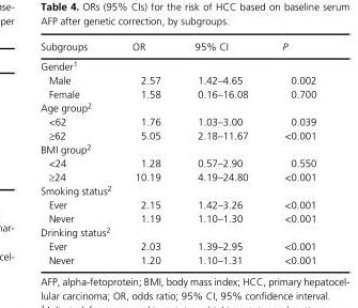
<table><thead><tr><td>Subgroups</td><td>OR</td><td>95% CI</td><td>P</td></tr></thead><tbody><tr><td colspan="4">Gender1</td></tr><tr><td>Male</td><td>2.57</td><td>1.42–4.65</td><td>0.002</td></tr><tr><td>Female</td><td>1.58</td><td>0.16–16.08</td><td>0.700</td></tr><tr><td colspan="4">Age group2</td></tr><tr><td>&lt;62</td><td>1.76</td><td>1.03–3.00</td><td>0.039</td></tr><tr><td>≥62</td><td>5.05</td><td>2.18–11.67</td><td>&lt;0.001</td></tr><tr><td colspan="4">BMI group2</td></tr><tr><td>&lt;24</td><td>1.28</td><td>0.57–2.90</td><td>0.550</td></tr><tr><td>≥24</td><td>10.19</td><td>4.19–24.80</td><td>&lt;0.001</td></tr><tr><td colspan="4">Smoking status2</td></tr><tr><td>Ever</td><td>2.15</td><td>1.42–3.26</td><td>&lt;0.001</td></tr><tr><td>Never</td><td>1.19</td><td>1.10–1.30</td><td>&lt;0.001</td></tr><tr><td colspan="4">Drinking status2</td></tr><tr><td>Ever</td><td>2.03</td><td>1.39–2.95</td><td>&lt;0.001</td></tr><tr><td>Never</td><td>1.20</td><td>1.10–1.31</td><td>&lt;0.001</td></tr></tbody></table>